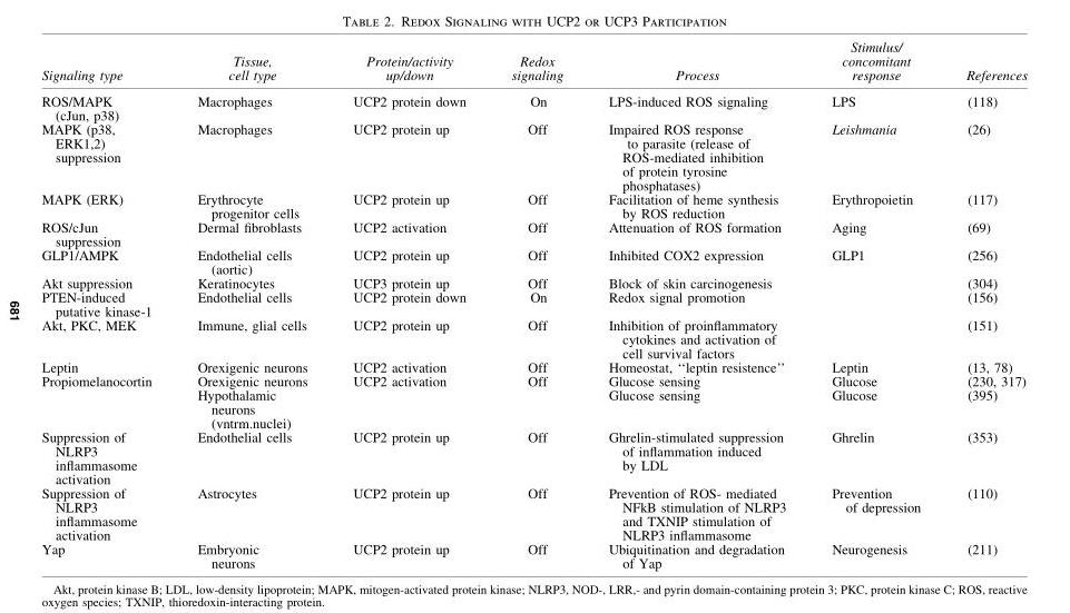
<table><thead><tr><td>Signaling type</td><td>Tissue, cell type</td><td>Protein/activity up/down</td><td>Redox signaling</td><td>Process</td><td>Stimulus/ concomitant response</td><td>References</td></tr></thead><tbody><tr><td>ROS/MAPK (cJun, p38)</td><td>Macrophages</td><td>UCP2 protein down</td><td>On</td><td>LPS-induced ROS signaling</td><td>LPS</td><td>(118)</td></tr><tr><td>MAPK (p38, ERK1,2) suppression</td><td>Macrophages</td><td>UCP2 protein up</td><td>Off</td><td>Impaired ROS response to parasite (release of ROS-mediated inhibition of protein tyrosine phosphatases)</td><td>Leishmania</td><td>(26)</td></tr><tr><td>MAPK (ERK)</td><td>Erythrocyte progenitor cells</td><td>UCP2 protein up</td><td>Off</td><td>Facilitation of heme synthesis by ROS reduction</td><td>Erythropoietin</td><td>(117)</td></tr><tr><td>ROS/cJun suppression</td><td>Dermal fibroblasts</td><td>UCP2 activation</td><td>Off</td><td>Attenuation of ROS formation</td><td>Aging</td><td>(69)</td></tr><tr><td>GLP1/AMPK</td><td>Endothelial cells (aortic)</td><td>UCP2 protein up</td><td>Off</td><td>Inhibited COX2 expression</td><td>GLP1</td><td>(256)</td></tr><tr><td>Akt suppression</td><td>Keratinocytes</td><td>UCP3 protein up</td><td>Off</td><td>Block of skin carcinogenesis</td><td></td><td>(304)</td></tr><tr><td>PTEN-induced putative kinase-1</td><td>Endothelial cells</td><td>UCP2 protein down</td><td>On</td><td>Redox signal promotion</td><td></td><td>(156)</td></tr><tr><td>Akt, PKC, MEK</td><td>Immune, glial cells</td><td>UCP2 protein up</td><td>Off</td><td>Inhibition of proinflammatory cytokines and activation of cell survival factors</td><td></td><td>(151)</td></tr><tr><td>Leptin</td><td>Orexigenic neurons</td><td>UCP2 activation</td><td>Off</td><td>Homeostat, ‘‘leptin resistence’’</td><td>Leptin</td><td>(13, 78)</td></tr><tr><td rowspan="2">Propiomelanocortin</td><td>Orexigenic neurons</td><td>UCP2 activation</td><td>Off</td><td>Glucose sensing</td><td>Glucose</td><td>(230, 317)</td></tr><tr><td>Hypothalamic neurons (vntrm.nuclei)</td><td></td><td></td><td>Glucose sensing</td><td>Glucose</td><td>(395)</td></tr><tr><td>Suppression of NLRP3 inflammasome activation</td><td>Endothelial cells</td><td>UCP2 protein up</td><td>Off</td><td>Ghrelin-stimulated suppression of inflammation induced by LDL</td><td>Ghrelin</td><td>(353)</td></tr><tr><td>Suppression of NLRP3 inflammasome activation</td><td>Astrocytes</td><td>UCP2 protein up</td><td>Off</td><td>Prevention of ROS- mediated NFkB stimulation of NLRP3 and TXNIP stimulation of NLRP3 inflammasome</td><td>Prevention of depression</td><td>(110)</td></tr><tr><td>Yap</td><td>Embryonic neurons</td><td>UCP2 protein up</td><td>Off</td><td>Ubiquitination and degradation of Yap</td><td>Neurogenesis</td><td>(211)</td></tr></tbody></table>